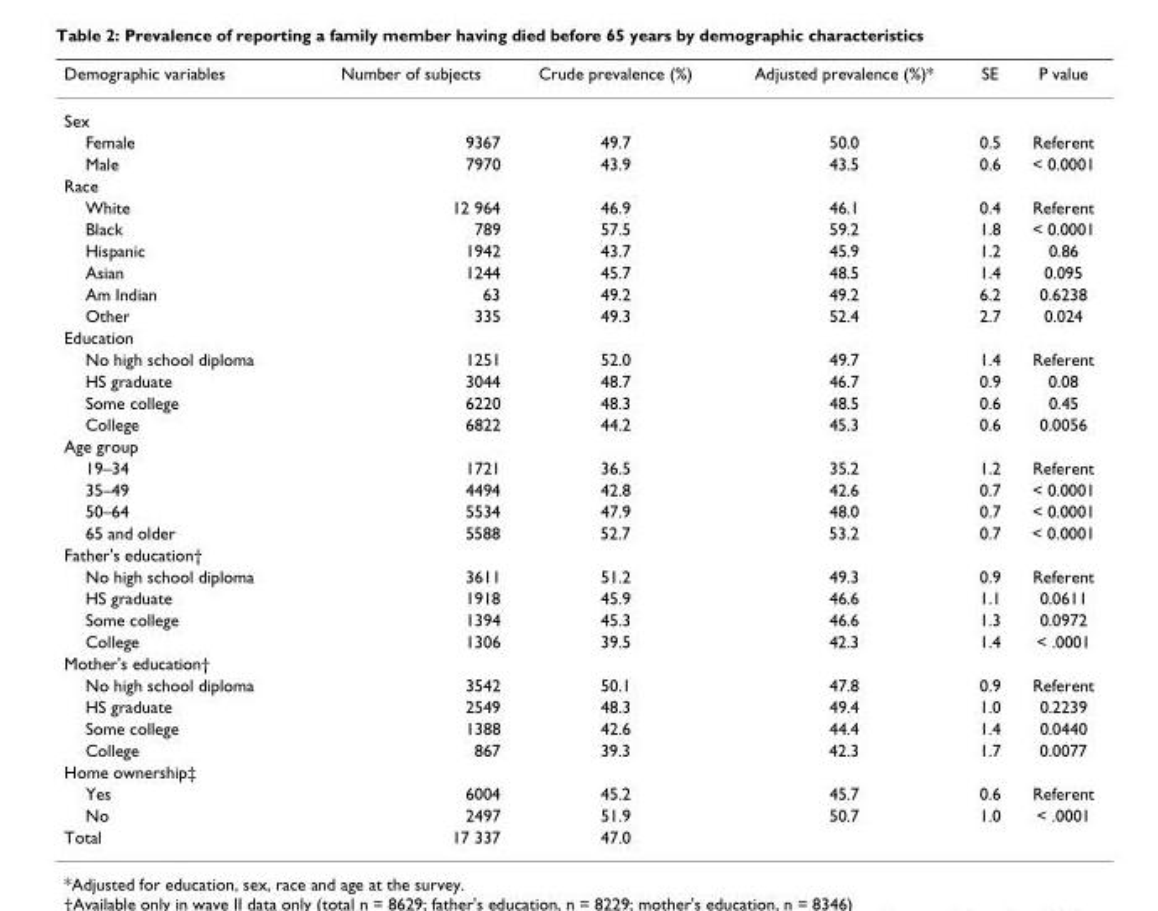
<table><thead><tr><td>Demographic variables</td><td>Number of subjects</td><td>Crude prevalence (%)</td><td>Adjusted prevalence (%)*</td><td>SE</td><td>P value</td></tr></thead><tbody><tr><td colspan="6">Sex</td></tr><tr><td>Female</td><td>9367</td><td>49.7</td><td>50.0</td><td>0.5</td><td>Referent</td></tr><tr><td>Male</td><td>7970</td><td>43.9</td><td>43.5</td><td>0.6</td><td>&lt; 0.0001</td></tr><tr><td colspan="6">Race</td></tr><tr><td>White</td><td>12 964</td><td>46.9</td><td>46.1</td><td>0.4</td><td>Referent</td></tr><tr><td>Black</td><td>789</td><td>57.5</td><td>59.2</td><td>1.8</td><td>&lt; 0.0001</td></tr><tr><td>Hispanic</td><td>1942</td><td>43.7</td><td>45.9</td><td>1.2</td><td>0.86</td></tr><tr><td>Asian</td><td>1244</td><td>45.7</td><td>48.5</td><td>1.4</td><td>0.095</td></tr><tr><td>Am Indian</td><td>63</td><td>49.2</td><td>49.2</td><td>6.2</td><td>0.6238</td></tr><tr><td>Other</td><td>335</td><td>49.3</td><td>52.4</td><td>2.7</td><td>0.024</td></tr><tr><td colspan="6">Education</td></tr><tr><td>No high school diploma</td><td>1251</td><td>52.0</td><td>49.7</td><td>1.4</td><td>Referent</td></tr><tr><td>HS graduate</td><td>3044</td><td>48.7</td><td>46.7</td><td>0.9</td><td>0.08</td></tr><tr><td>Some college</td><td>6220</td><td>48.3</td><td>48.5</td><td>0.6</td><td>0.45</td></tr><tr><td>College</td><td>6822</td><td>44.2</td><td>45.3</td><td>0.6</td><td>0.0056</td></tr><tr><td colspan="6">Age group</td></tr><tr><td>19–34</td><td>1721</td><td>36.5</td><td>35.2</td><td>1.2</td><td>Referent</td></tr><tr><td>35–49</td><td>4494</td><td>42.8</td><td>42.6</td><td>0.7</td><td>&lt; 0.0001</td></tr><tr><td>50–64</td><td>5534</td><td>47.9</td><td>48.0</td><td>0.7</td><td>&lt; 0.0001</td></tr><tr><td>65 and older</td><td>5588</td><td>52.7</td><td>53.2</td><td>0.7</td><td>&lt; 0.0001</td></tr><tr><td colspan="6">Father&#x27;s education†</td></tr><tr><td>No high school diploma</td><td>3611</td><td>51.2</td><td>49.3</td><td>0.9</td><td>Referent</td></tr><tr><td>HS graduate</td><td>1918</td><td>45.9</td><td>46.6</td><td>1.1</td><td>0.0611</td></tr><tr><td>Some college</td><td>1394</td><td>45.3</td><td>46.6</td><td>1.3</td><td>0.0972</td></tr><tr><td>College</td><td>1306</td><td>39.5</td><td>42.3</td><td>1.4</td><td>&lt; .0001</td></tr><tr><td colspan="6">Mother&#x27;s education†</td></tr><tr><td>No high school diploma</td><td>3542</td><td>50.1</td><td>47.8</td><td>0.9</td><td>Referent</td></tr><tr><td>HS graduate</td><td>2549</td><td>48.3</td><td>49.4</td><td>1.0</td><td>0.2239</td></tr><tr><td>Some college</td><td>1388</td><td>42.6</td><td>44.4</td><td>1.4</td><td>0.0440</td></tr><tr><td>College</td><td>867</td><td>39.3</td><td>42.3</td><td>1.7</td><td>0.0077</td></tr><tr><td colspan="6">Home ownership‡</td></tr><tr><td>Yes</td><td>6004</td><td>45.2</td><td>45.7</td><td>0.6</td><td>Referent</td></tr><tr><td>No</td><td>2497</td><td>51.9</td><td>50.7</td><td>1.0</td><td>&lt; .0001</td></tr><tr><td>Total</td><td>17 337</td><td>47.0</td><td></td><td></td><td></td></tr></tbody></table>